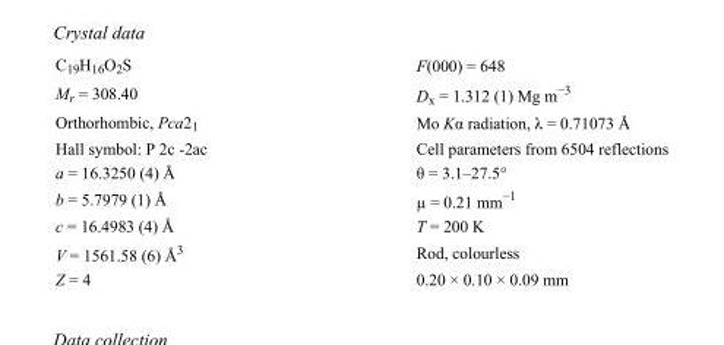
<table><tbody><tr><td>C<sub>19</sub>H<sub>16</sub>O<sub>2</sub>S</td><td>F(000) = 648</td></tr><tr><td>M<sub>r</sub> = 308.40</td><td>D<sub>x</sub> = 1.312 (1) Mg m<sup>−3</sup></td></tr><tr><td>Orthorhombic, Pca2<sub>1</sub></td><td>Mo Kα radiation, λ = 0.71073 Å</td></tr><tr><td>Hall symbol: P 2c -2ac</td><td>Cell parameters from 6504 reflections</td></tr><tr><td>a = 16.3250 (4) Å</td><td>θ = 3.1–27.5°</td></tr><tr><td>b = 5.7979 (1) Å</td><td>µ = 0.21 mm<sup>−1</sup></td></tr><tr><td>c = 16.4983 (4) Å</td><td>T = 200 K</td></tr><tr><td>V = 1561.58 (6) Å<sup>3</sup></td><td>Rod, colourless</td></tr><tr><td>Z = 4</td><td>0.20 × 0.10 × 0.09 mm</td></tr></tbody></table>